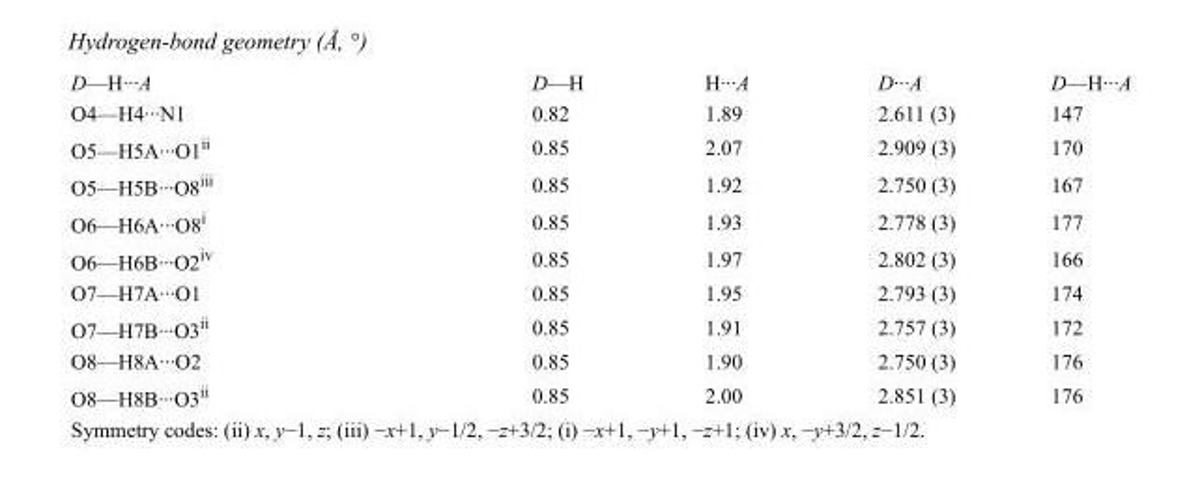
<table><tbody><tr><td>D—H···A</td><td>D—H</td><td>H···A</td><td>D···A</td><td>D—H···A</td></tr><tr><td>O4—H4···N1</td><td>0.82</td><td>1.89</td><td>2.611 (3)</td><td>147</td></tr><tr><td>O5—H5A···O1<sup>ii</sup></td><td>0.85</td><td>2.07</td><td>2.909 (3)</td><td>170</td></tr><tr><td>O5—H5B···O8<sup>iii</sup></td><td>0.85</td><td>1.92</td><td>2.750 (3)</td><td>167</td></tr><tr><td>O6—H6A···O8<sup>i</sup></td><td>0.85</td><td>1.93</td><td>2.778 (3)</td><td>177</td></tr><tr><td>O6—H6B···O2<sup>iv</sup></td><td>0.85</td><td>1.97</td><td>2.802 (3)</td><td>166</td></tr><tr><td>O7—H7A···O1</td><td>0.85</td><td>1.95</td><td>2.793 (3)</td><td>174</td></tr><tr><td>O7—H7B···O3<sup>ii</sup></td><td>0.85</td><td>1.91</td><td>2.757 (3)</td><td>172</td></tr><tr><td>O8—H8A···O2</td><td>0.85</td><td>1.90</td><td>2.750 (3)</td><td>176</td></tr><tr><td>O8—H8B···O3<sup>ii</sup></td><td>0.85</td><td>2.00</td><td>2.851 (3)</td><td>176</td></tr></tbody></table>